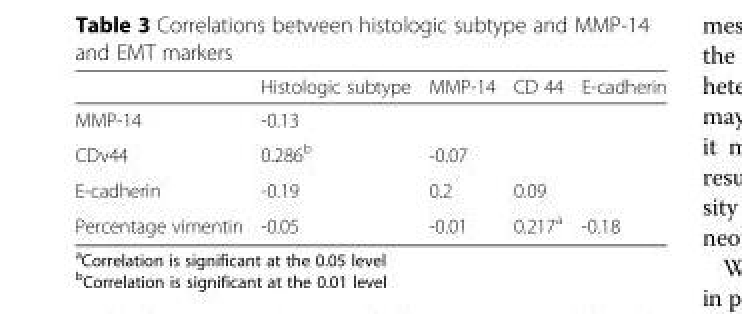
<table><thead><tr><td></td><td>Histologic subtype</td><td>MMP-14</td><td>CD 44</td><td>E-cadherin</td></tr></thead><tbody><tr><td>MMP-14</td><td>-0.13</td><td></td><td></td><td></td></tr><tr><td>CDv44</td><td>0.286<sup>b</sup></td><td>-0.07</td><td></td><td></td></tr><tr><td>E-cadherin</td><td>-0.19</td><td>0.2</td><td>0.09</td><td></td></tr><tr><td>Percentage vimentin</td><td>-0.05</td><td>-0.01</td><td>0.217<sup>a</sup></td><td>-0.18</td></tr></tbody></table>